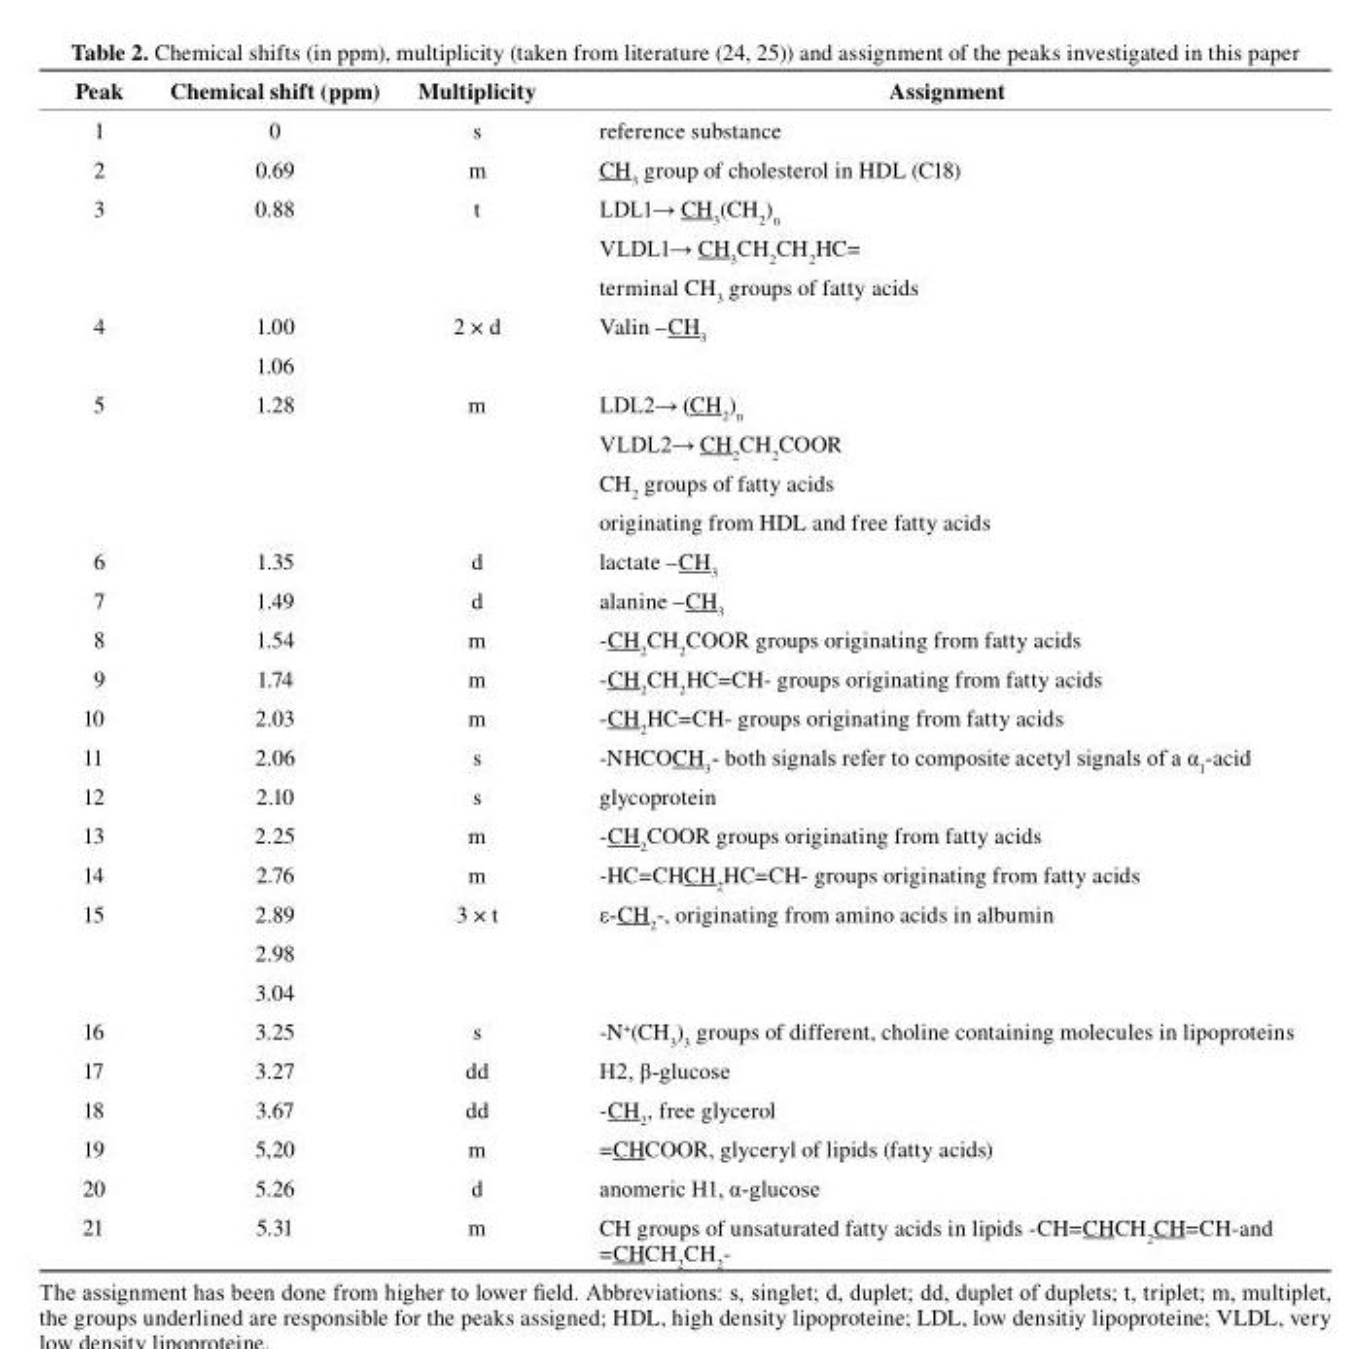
<table><thead><tr><td>Peak</td><td>chemical shift (ppm)</td><td>Multiplicity</td><td>Assignment</td></tr></thead><tbody><tr><td>1</td><td>0</td><td>s</td><td>reference substance</td></tr><tr><td>2</td><td>0.69</td><td>m</td><td>CH<sub>3</sub> group of cholesterol in HDL (C18)</td></tr><tr><td rowspan="3">3</td><td>0.88</td><td>t</td><td>LDL1→ CH<sub>3</sub>(CH<sub>2</sub>)n</td></tr><tr><td></td><td></td><td>VLDL1→ CH<sub>3</sub>CH<sub>2</sub>CH<sub>2</sub>HC=</td></tr><tr><td></td><td></td><td>terminal CH<sub>3</sub> groups of fatty acids</td></tr><tr><td rowspan="2">4</td><td>1.00</td><td>2 × d</td><td>Valin –CH<sub>3</sub></td></tr><tr><td>1.06</td><td></td><td></td></tr><tr><td rowspan="4">5</td><td>1.28</td><td>m</td><td>LDL2→ (CH<sub>2</sub>)<sub>n</sub></td></tr><tr><td></td><td></td><td>VLDL2→ CH<sub>2</sub>CH<sub>2</sub>COOR</td></tr><tr><td></td><td></td><td>CH<sub>2</sub> groups of fatty acids</td></tr><tr><td></td><td></td><td>originating from HDL and free fatty acids</td></tr><tr><td>6</td><td>1.35</td><td>d</td><td>lactate –CH<sub>3</sub></td></tr><tr><td>7</td><td>1.49</td><td>d</td><td>alanine –CH<sub>3</sub></td></tr><tr><td>8</td><td>1.54</td><td>m</td><td>-CH<sub>2</sub>CH<sub>2</sub>COOR groups originating from fatty acids</td></tr><tr><td>9</td><td>1.74</td><td>m</td><td>-CH<sub>2</sub>CH<sub>2</sub>HC=CH- groups originating from fatty acids</td></tr><tr><td>10</td><td>2.03</td><td>m</td><td>-CH<sub>2</sub>HC=CH- groups originating from fatty acids</td></tr><tr><td>11</td><td>2.06</td><td>s</td><td>-NHCOCH<sub>3</sub>- both signals refer to composite acetyl signals of a α<sub>1</sub>-acid</td></tr><tr><td>12</td><td>2.10</td><td>s</td><td>glycoprotein</td></tr><tr><td>13</td><td>2.25</td><td>m</td><td>-CH<sub>2</sub>COOR groups originating from fatty acids</td></tr><tr><td>14</td><td>2.76</td><td>m</td><td>-HC=CHCH<sub>2</sub>HC=CH- groups originating from fatty acids</td></tr><tr><td rowspan="3">15</td><td>2.89</td><td>3 × t</td><td>ε-CH<sub>2</sub>-, originating from amino acids in albumin</td></tr><tr><td>2.98</td><td></td><td></td></tr><tr><td>3.04</td><td></td><td></td></tr><tr><td>16</td><td>3.25</td><td>s</td><td>-N+(CH<sub>3</sub>)<sub>3</sub> groups of different, choline containing molecules in lipoproteins</td></tr><tr><td>17</td><td>3.27</td><td>dd</td><td>H2, β-glucose</td></tr><tr><td>18</td><td>3.67</td><td>dd</td><td>-CH<sub>2</sub>, free glycerol</td></tr><tr><td>19</td><td>5,20</td><td>m</td><td>=CHCOOR, glyceryl of lipids (fatty acids)</td></tr><tr><td>20</td><td>5.26</td><td>d</td><td>anomeric H1, α-glucose</td></tr><tr><td>21</td><td>5.31</td><td>m</td><td>CH groups of unsaturated fatty acids in lipids -CH=CHCH<sub>2</sub>CH=CH-and =CHCH<sub>2</sub>CH<sub>2</sub>-</td></tr></tbody></table>